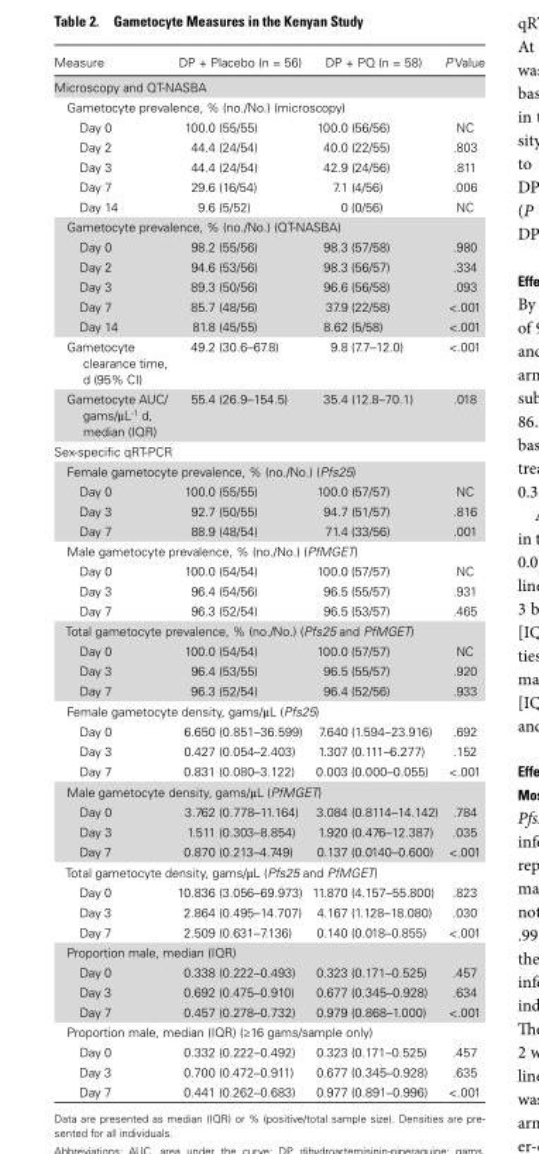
<table><thead><tr><td>Measure</td><td>DP + Placebo (n = 56)</td><td>DP + PQ (n = 58)</td><td>P Value</td></tr></thead><tbody><tr><td colspan="4">Microscopy and QT-NASBA</td></tr><tr><td colspan="4">Gametocyte prevalence, % (no./No.) (microscopy)</td></tr><tr><td>Day 0</td><td>100.0 (55/55)</td><td>100.0 (56/56)</td><td>NC</td></tr><tr><td>Day 2</td><td>44.4 (24/54)</td><td>40.0 (22/55)</td><td>.803</td></tr><tr><td>Day 3</td><td>44.4 (24/54)</td><td>42.9 (24/56)</td><td>.811</td></tr><tr><td>Day 7</td><td>29.6 (16/54)</td><td>7.1 (4/56)</td><td>.006</td></tr><tr><td>Day 14</td><td>9.6 (5/52)</td><td>0 (0/56)</td><td>NC</td></tr><tr><td colspan="4">Gametocyte prevalence, % (no./No.) (QT-NASBA)</td></tr><tr><td>Day 0</td><td>98.2 (55/56)</td><td>98.3 (57/58)</td><td>.980</td></tr><tr><td>Day 2</td><td>94.6 (53/56)</td><td>98.3 (56/57)</td><td>.334</td></tr><tr><td>Day 3</td><td>89.3 (50/56)</td><td>96.6 (56/58)</td><td>.093</td></tr><tr><td>Day 7</td><td>85.7 (48/56)</td><td>37.9 (22/58)</td><td>&lt;.001</td></tr><tr><td>Day 14</td><td>81.8 (45/55)</td><td>8.62 (5/58)</td><td>&lt;.001</td></tr><tr><td>Gametocyte clearance time, d (95% CI)</td><td>49.2 (30.6–67.8)</td><td>9.8 (7.7–12.0)</td><td>&lt;.001</td></tr><tr><td>Gametocyte AUC/ gams/µL<sup>-1</sup> d, median (IQR)</td><td>55.4 (26.9–154.5)</td><td>35.4 (12.8–70.1)</td><td>.018</td></tr><tr><td colspan="4">Sex-specific qRT-PCR</td></tr><tr><td colspan="4">Female gametocyte prevalence, % (no./No.) (Pfs25)</td></tr><tr><td>Day 0</td><td>100.0 (55/55)</td><td>100.0 (57/57)</td><td>NC</td></tr><tr><td>Day 3</td><td>92.7 (50/55)</td><td>94.7 (51/57)</td><td>.816</td></tr><tr><td>Day 7</td><td>88.9 (48/54)</td><td>71.4 (33/56)</td><td>.001</td></tr><tr><td colspan="4">Male gametocyte prevalence, % (no./No.) (PfMGET)</td></tr><tr><td>Day 0</td><td>100.0 (54/54)</td><td>100.0 (57/57)</td><td>NC</td></tr><tr><td>Day 3</td><td>96.4 (54/56)</td><td>96.5 (55/57)</td><td>.931</td></tr><tr><td>Day 7</td><td>96.3 (52/54)</td><td>96.5 (53/57)</td><td>.465</td></tr><tr><td colspan="4">Total gametocyte prevalence, % (no./No.) (Pfs25 and PfMGET)</td></tr><tr><td>Day 0</td><td>100.0 (54/54)</td><td>100.0 (57/57)</td><td>NC</td></tr><tr><td>Day 3</td><td>96.4 (53/55)</td><td>96.5 (55/57)</td><td>.920</td></tr><tr><td>Day 7</td><td>96.3 (52/54)</td><td>96.4 (52/56)</td><td>.933</td></tr><tr><td colspan="4">Female gametocyte density, gams/µL (Pfs25)</td></tr><tr><td>Day 0</td><td>6.650 (0.851–36.599)</td><td>7.640 (1.594–23.916)</td><td>.692</td></tr><tr><td>Day 3</td><td>0.427 (0.054–2.403)</td><td>1.307 (0.111–6.277)</td><td>.152</td></tr><tr><td>Day 7</td><td>0.831 (0.080–3.122)</td><td>0.003 (0.000–0.055)</td><td>&lt;.001</td></tr><tr><td colspan="4">Male gametocyte density, gams/µL (PfMGET)</td></tr><tr><td>Day 0</td><td>3.762 (0.778–11.164)</td><td>3.084 (0.8114–14.142)</td><td>.784</td></tr><tr><td>Day 3</td><td>1.511 (0.303–8.854)</td><td>1.920 (0.476–12.387)</td><td>.035</td></tr><tr><td>Day 7</td><td>0.870 (0.213–4.749)</td><td>0.137 (0.0140–0.600)</td><td>&lt;.001</td></tr><tr><td colspan="4">Total gametocyte density, gams/µL (Pfs25 and PfMGET)</td></tr><tr><td>Day 0</td><td>10.836 (3.056–69.973)</td><td>11.870 (4.157–55.800)</td><td>.823</td></tr><tr><td>Day 3</td><td>2.864 (0.495–14.707)</td><td>4.167 (1.128–18.080)</td><td>.030</td></tr><tr><td>Day 7</td><td>2.509 (0.631–7.136)</td><td>0.140 (0.018–0.855)</td><td>&lt;.001</td></tr><tr><td colspan="4">Proportion male, median (IQR)</td></tr><tr><td>Day 0</td><td>0.338 (0.222–0.493)</td><td>0.323 (0.171–0.525)</td><td>.457</td></tr><tr><td>Day 3</td><td>0.692 (0.475–0.910)</td><td>0.677 (0.345–0.928)</td><td>.634</td></tr><tr><td>Day 7</td><td>0.457 (0.278–0.732)</td><td>0.979 (0.868–1.000)</td><td>&lt;.001</td></tr><tr><td colspan="4">Proportion male, median (IQR) (≥16 gams/sample only)</td></tr><tr><td>Day 0</td><td>0.332 (0.222–0.492)</td><td>0.323 (0.171–0.525)</td><td>.457</td></tr><tr><td>Day 3</td><td>0.700 (0.472–0.911)</td><td>0.677 (0.345–0.928)</td><td>.635</td></tr><tr><td>Day 7</td><td>0.441 (0.262–0.683)</td><td>0.977 (0.891–0.996)</td><td>&lt;.001</td></tr></tbody></table>